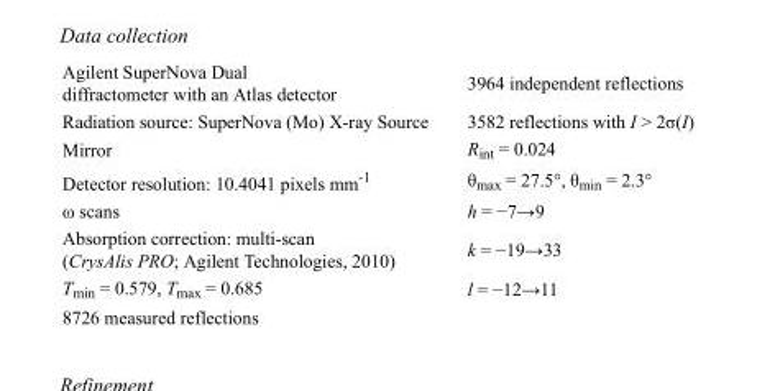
<table><tbody><tr><td>Agilent SuperNova Dual diffractometer with an Atlas detector</td><td>3964 independent reflections</td></tr><tr><td>Radiation source: SuperNova (Mo) X-ray Source</td><td>3582 reflections with I &gt; 2σ(I)</td></tr><tr><td>Mirror</td><td>R<sub>int</sub> = 0.024</td></tr><tr><td>Detector resolution: 10.4041 pixels mm<sup>-1</sup></td><td>θ<sub>max</sub> = 27.5°, θ<sub>min</sub> = 2.3°</td></tr><tr><td>ω scans</td><td>h = −7→9</td></tr><tr><td>Absorption correction: multi-scan (CrysAlis PRO; Agilent Technologies, 2010)</td><td>k = −19→33</td></tr><tr><td>T<sub>min</sub> = 0.579, T<sub>max</sub> = 0.685</td><td>l = −12→11</td></tr><tr><td>8726 measured reflections</td><td></td></tr></tbody></table>